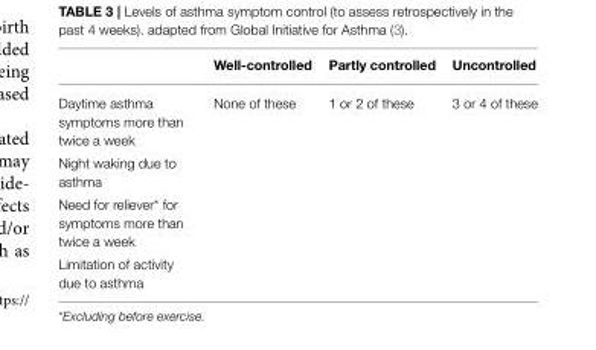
<table><thead><tr><td></td><td>Well-controlled</td><td>Partly controlled</td><td>Uncontrolled</td></tr></thead><tbody><tr><td>Daytime asthma symptoms more than twice a week</td><td>None of these</td><td>1 or 2 of these</td><td>3 or 4 of these</td></tr><tr><td colspan="4">Night waking due to asthma</td></tr><tr><td colspan="4">Need for reliever* for symptoms more than twice a week</td></tr><tr><td>Limitation of activity due to asthma</td><td></td><td></td><td></td></tr></tbody></table>